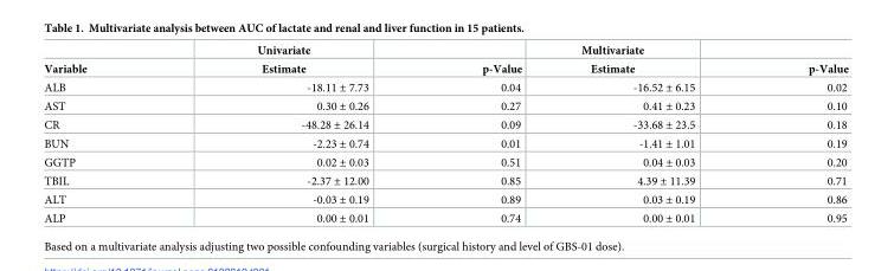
<table><thead><tr><td rowspan="2">Variable</td><td rowspan="2">Univariate Estimate</td><td rowspan="2">p-Value</td><td rowspan="2">Multivariate Estimate</td><td rowspan="2">p-Value</td></tr><tr></tr></thead><tbody><tr><td>ALB</td><td>-18.11 ± 7.73</td><td>0.04</td><td>-16.52 ± 6.15</td><td>0.02</td></tr><tr><td>AST</td><td>0.30 ± 0.26</td><td>0.27</td><td>0.41 ± 0.23</td><td>0.10</td></tr><tr><td>CR</td><td>-48.28 ± 26.14</td><td>0.09</td><td>-33.68 ± 23.5</td><td>0.18</td></tr><tr><td>BUN</td><td>-2.23 ± 0.74</td><td>0.01</td><td>-1.41 ± 1.01</td><td>0.19</td></tr><tr><td>GGTP</td><td>0.02 ± 0.03</td><td>0.51</td><td>0.04 ± 0.03</td><td>0.20</td></tr><tr><td>TBIL</td><td>-2.37 ± 12.00</td><td>0.85</td><td>4.39 ± 11.39</td><td>0.71</td></tr><tr><td>ALT</td><td>-0.03 ± 0.19</td><td>0.89</td><td>0.03 ± 0.19</td><td>0.86</td></tr><tr><td>ALP</td><td>0.00 ± 0.01</td><td>0.74</td><td>0.00 ± 0.01</td><td>0.95</td></tr></tbody></table>